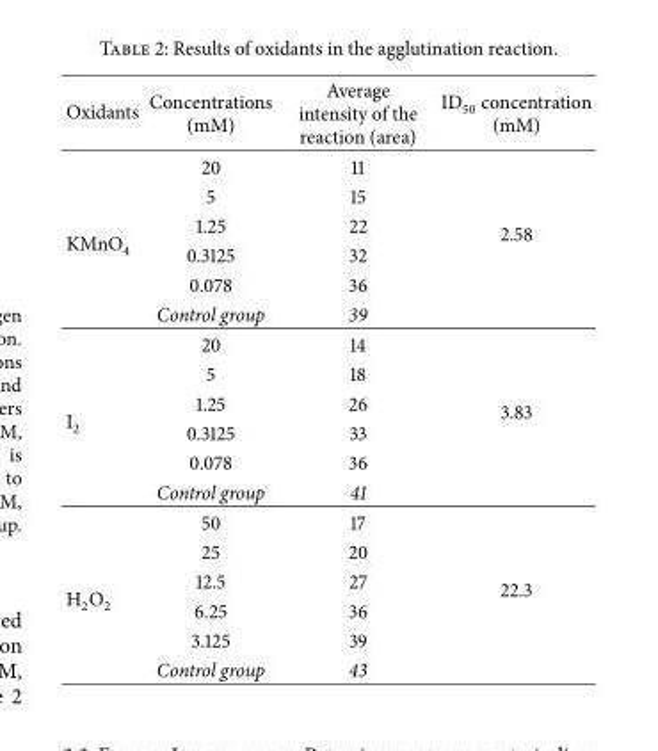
<table><thead><tr><td>Oxidants</td><td>Concentrations (mM)</td><td>Average intensity of the reaction (area)</td><td>ID<sub>50</sub> concentration (mM)</td></tr></thead><tbody><tr><td rowspan="6">KMnO<sub>4</sub></td><td>20</td><td>11</td><td rowspan="6">2.58</td></tr><tr><td>5</td><td>15</td></tr><tr><td>1.25</td><td>22</td></tr><tr><td>0.3125</td><td>32</td></tr><tr><td>0.078</td><td>36</td></tr><tr><td>Control group</td><td>39</td></tr><tr><td rowspan="6">I<sub>2</sub></td><td>20</td><td>14</td><td rowspan="6">3.83</td></tr><tr><td>5</td><td>18</td></tr><tr><td>1.25</td><td>26</td></tr><tr><td>0.3125</td><td>33</td></tr><tr><td>0.078</td><td>36</td></tr><tr><td>Control group</td><td>41</td></tr><tr><td rowspan="6">H<sub>2</sub>O<sub>2</sub></td><td>50</td><td>17</td><td rowspan="6">22.3</td></tr><tr><td>25</td><td>20</td></tr><tr><td>12.5</td><td>27</td></tr><tr><td>6.25</td><td>36</td></tr><tr><td>3.125</td><td>39</td></tr><tr><td>Control group</td><td>43</td></tr></tbody></table>